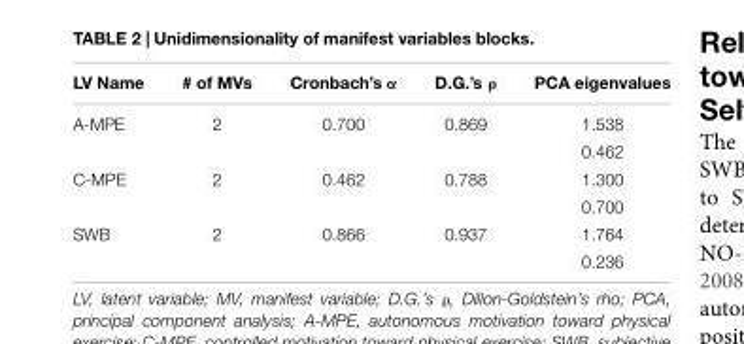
<table><thead><tr><td>LV Name</td><td># of MVs</td><td>Cronbach’s α</td><td>D.G.’s ρ</td><td>PCA eigenvalues</td></tr></thead><tbody><tr><td rowspan="2">A-MPE</td><td>2</td><td>0.700</td><td>0.869</td><td>1.538</td></tr><tr><td></td><td></td><td></td><td>0.462</td></tr><tr><td rowspan="2">C-MPE</td><td>2</td><td>0.462</td><td>0.788</td><td>1.300</td></tr><tr><td></td><td></td><td></td><td>0.700</td></tr><tr><td rowspan="2">SWB</td><td>2</td><td>0.866</td><td>0.937</td><td>1.764</td></tr><tr><td></td><td></td><td></td><td>0.236</td></tr></tbody></table>